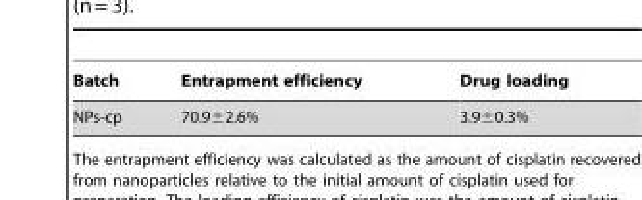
<table><thead><tr><td>Batch</td><td>Entrapment efficiency</td><td>Drug loading</td></tr></thead><tbody><tr><td>NPs-cp</td><td>70.9±2.6%</td><td>3.9±0.3%</td></tr></tbody></table>